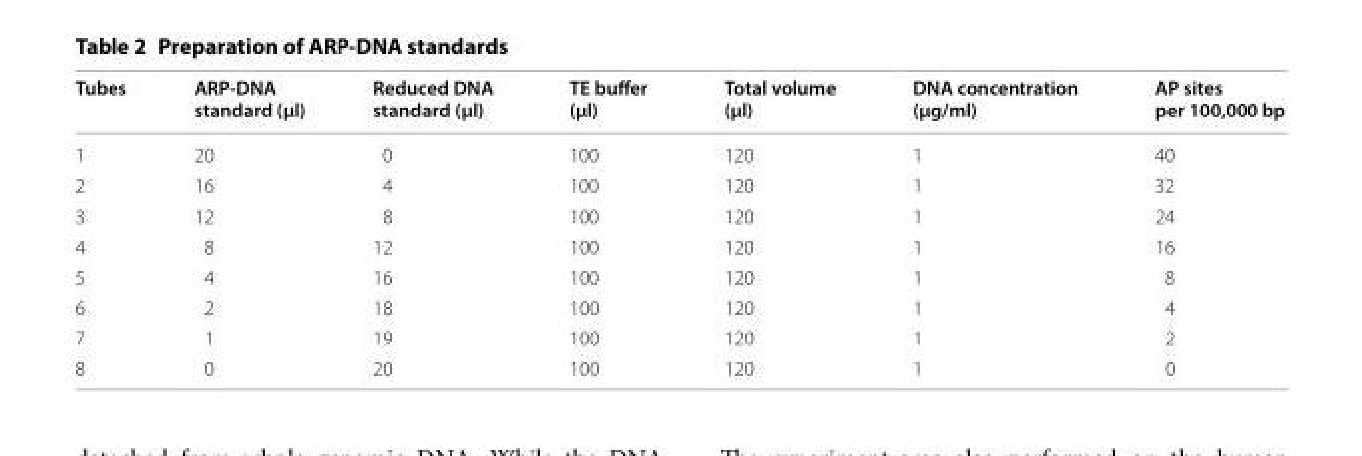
<table><thead><tr><td>Tubes</td><td>ARP-DNA standard (µl)</td><td>Reduced DNA standard (µl)</td><td>TE buffer (µl)</td><td>Total volume (µl)</td><td>DNA concentration (µg/ml)</td><td>AP sites per 100,000 bp</td></tr></thead><tbody><tr><td>1</td><td>20</td><td>0</td><td>100</td><td>120</td><td>1</td><td>40</td></tr><tr><td>2</td><td>16</td><td>4</td><td>100</td><td>120</td><td>1</td><td>32</td></tr><tr><td>3</td><td>12</td><td>8</td><td>100</td><td>120</td><td>1</td><td>24</td></tr><tr><td>4</td><td>8</td><td>12</td><td>100</td><td>120</td><td>1</td><td>16</td></tr><tr><td>5</td><td>4</td><td>16</td><td>100</td><td>120</td><td>1</td><td>8</td></tr><tr><td>6</td><td>2</td><td>18</td><td>100</td><td>120</td><td>1</td><td>4</td></tr><tr><td>7</td><td>1</td><td>19</td><td>100</td><td>120</td><td>1</td><td>2</td></tr><tr><td>8</td><td>0</td><td>20</td><td>100</td><td>120</td><td>1</td><td>0</td></tr></tbody></table>